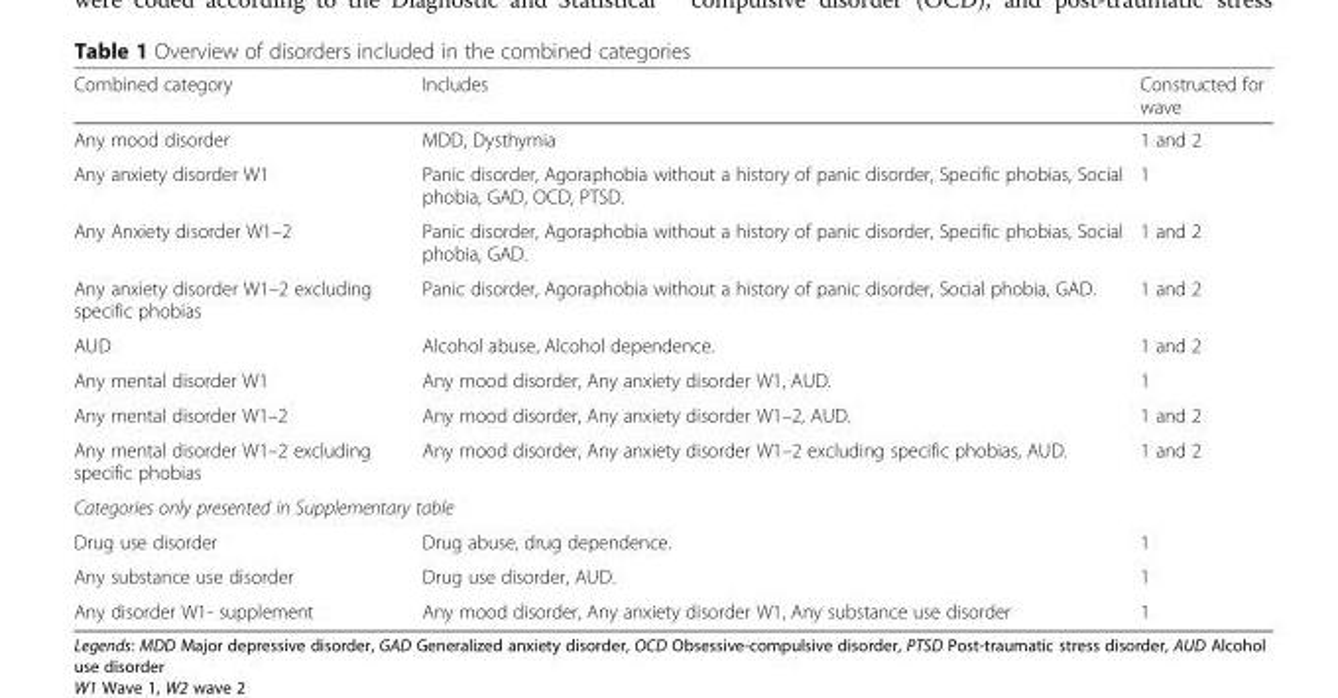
<table><thead><tr><td>Combined category</td><td>Includes</td><td>Constructed for wave</td></tr></thead><tbody><tr><td>Any mood disorder</td><td>MDD, Dysthymia</td><td>1 and 2</td></tr><tr><td>Any anxiety disorder W1</td><td>Panic disorder, Agoraphobia without a history of panic disorder, Specific phobias, Social phobia, GAD, OCD, PTSD.</td><td>1</td></tr><tr><td>Any Anxiety disorder W1–2</td><td>Panic disorder, Agoraphobia without a history of panic disorder, Specific phobias, Social phobia, GAD.</td><td>1 and 2</td></tr><tr><td>Any anxiety disorder W1–2 excluding specific phobias</td><td>Panic disorder, Agoraphobia without a history of panic disorder, Social phobia, GAD.</td><td>1 and 2</td></tr><tr><td>AUD</td><td>Alcohol abuse, Alcohol dependence.</td><td>1 and 2</td></tr><tr><td>Any mental disorder W1</td><td>Any mood disorder, Any anxiety disorder W1, AUD.</td><td>1</td></tr><tr><td>Any mental disorder W1–2</td><td>Any mood disorder, Any anxiety disorder W1–2, AUD.</td><td>1 and 2</td></tr><tr><td>Any mental disorder W1–2 excluding specific phobias</td><td>Any mood disorder, Any anxiety disorder W1–2 excluding specific phobias, AUD.</td><td>1 and 2</td></tr><tr><td colspan="3">Categories only presented in Supplementary table</td></tr><tr><td>Drug use disorder</td><td>Drug abuse, drug dependence.</td><td>1</td></tr><tr><td>Any substance use disorder</td><td>Drug use disorder, AUD.</td><td>1</td></tr><tr><td>Any disorder W1- supplement</td><td>Any mood disorder, Any anxiety disorder W1, Any substance use disorder</td><td>1</td></tr></tbody></table>